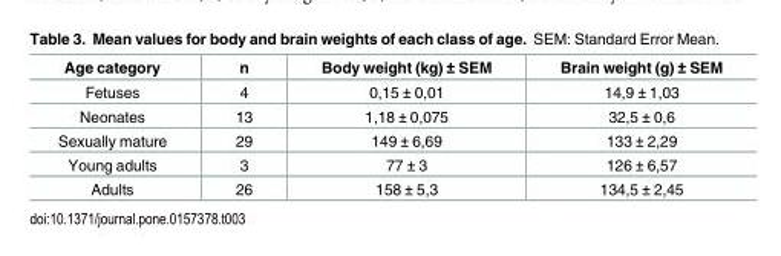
<table><thead><tr><td>Age category</td><td>n</td><td>Body weight (kg) ± SEM</td><td>Brain weight (g) ± SEM</td></tr></thead><tbody><tr><td>Fetuses</td><td>4</td><td>0,15 ± 0,01</td><td>14,9 ± 1,03</td></tr><tr><td>Neonates</td><td>13</td><td>1,18 ± 0,075</td><td>32,5 ± 0,6</td></tr><tr><td>Sexually mature</td><td>29</td><td>149 ± 6,69</td><td>133 ± 2,29</td></tr><tr><td>Young adults</td><td>3</td><td>77 ± 3</td><td>126 ± 6,57</td></tr><tr><td>Adults</td><td>26</td><td>158 ± 5,3</td><td>134,5 ± 2,45</td></tr></tbody></table>